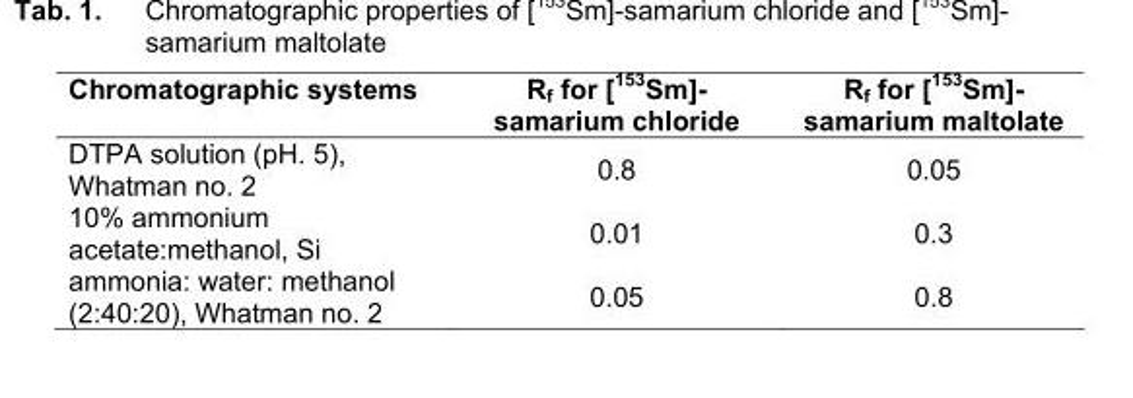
<table><thead><tr><td>Chromatographic systems</td><td>R<sub>f</sub> for [<sup>153</sup>Sm]- samarium chloride</td><td>R<sub>f</sub> for [<sup>153</sup>Sm]- samarium maltolate</td></tr></thead><tbody><tr><td>DTPA solution (pH. 5), Whatman no. 2</td><td>0.8</td><td>0.05</td></tr><tr><td>10% ammonium acetate:methanol, Si</td><td>0.01</td><td>0.3</td></tr><tr><td>ammonia: water: methanol (2:40:20), Whatman no. 2</td><td>0.05</td><td>0.8</td></tr></tbody></table>